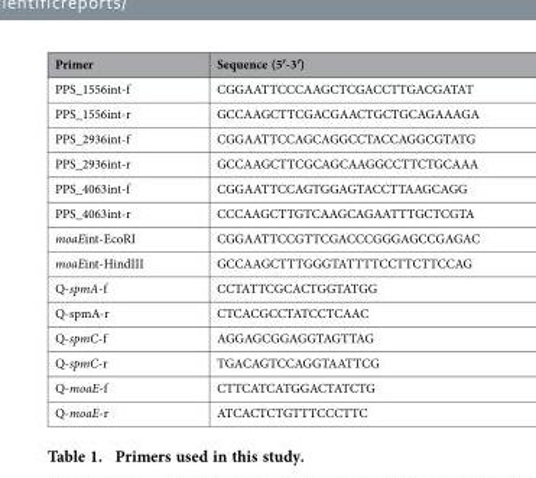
<table><thead><tr><td>Primer</td><td>Sequence (5′-3′)</td></tr></thead><tbody><tr><td>PPS_1556int-f</td><td>CGGAATTCCCAAGCTCGACCTTGACGATAT</td></tr><tr><td>PPS_1556int-r</td><td>GCCAAGCTTCGACGAACTGCTGCAGAAAGA</td></tr><tr><td>PPS_2936int-f</td><td>CGGAATTCCAGCAGGCCTACCAGGCGTATG</td></tr><tr><td>PPS_2936int-r</td><td>GCCAAGCTTCGCAGCAAGGCCTTCTGCAAA</td></tr><tr><td>PPS_4063int-f</td><td>CGGAATTCCAGTGGAGTACCTTAAGCAGG</td></tr><tr><td>PPS_4063int-r</td><td>CCCAAGCTTGTCAAGCAGAATTTGCTCGTA</td></tr><tr><td>moaEint-EcoRI</td><td>CGGAATTCCGTTCGACCCGGGAGCCGAGAC</td></tr><tr><td>moaEint-HindIII</td><td>GCCAAGCTTTGGGTATTTTCCTTCTTCCAG</td></tr><tr><td>Q-spmA-f</td><td>CCTATTCGCACTGGTATGG</td></tr><tr><td>Q-spmA-r</td><td>CTCACGCCTATCCTCAAC</td></tr><tr><td>Q-spmC-f</td><td>AGGAGCGGAGGTAGTTAG</td></tr><tr><td>Q-spmC-r</td><td>TGACAGTCCAGGTAATTCG</td></tr><tr><td>Q-moaE-f</td><td>CTTCATCATGGACTATCTG</td></tr><tr><td>Q-moaE-r</td><td>ATCACTCTGTTTCCCTTC</td></tr></tbody></table>